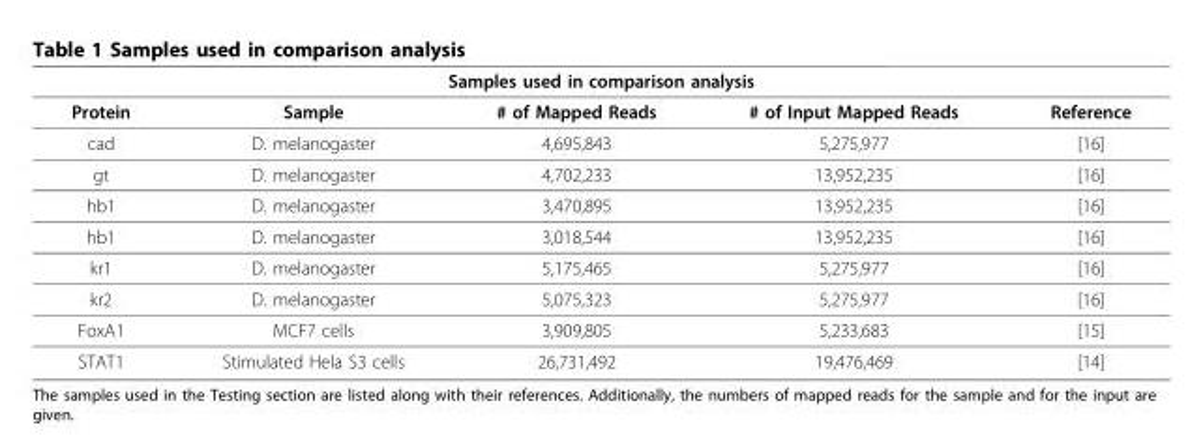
<table><thead><tr><td colspan="5">Samples used in comparison analysis</td></tr><tr><td>Protein</td><td>Sample</td><td># of Mapped Reads</td><td># of Input Mapped Reads</td><td>Reference</td></tr></thead><tbody><tr><td>cad</td><td>D. melanogaster</td><td>4,695,843</td><td>5,275,977</td><td>[16]</td></tr><tr><td>gt</td><td>D. melanogaster</td><td>4,702,233</td><td>13,952,235</td><td>[16]</td></tr><tr><td>hb1</td><td>D. melanogaster</td><td>3,470,895</td><td>13,952,235</td><td>[16]</td></tr><tr><td>hb1</td><td>D. melanogaster</td><td>3,018,544</td><td>13,952,235</td><td>[16]</td></tr><tr><td>kr1</td><td>D. melanogaster</td><td>5,175,465</td><td>5,275,977</td><td>[16]</td></tr><tr><td>kr2</td><td>D. melanogaster</td><td>5,075,323</td><td>5,275,977</td><td>[16]</td></tr><tr><td>FoxA1</td><td>MCF7 cells</td><td>3,909,805</td><td>5,233,683</td><td>[15]</td></tr><tr><td>STAT1</td><td>Stimulated Hela S3 cells</td><td>26,731,492</td><td>19,476,469</td><td>[14]</td></tr></tbody></table>